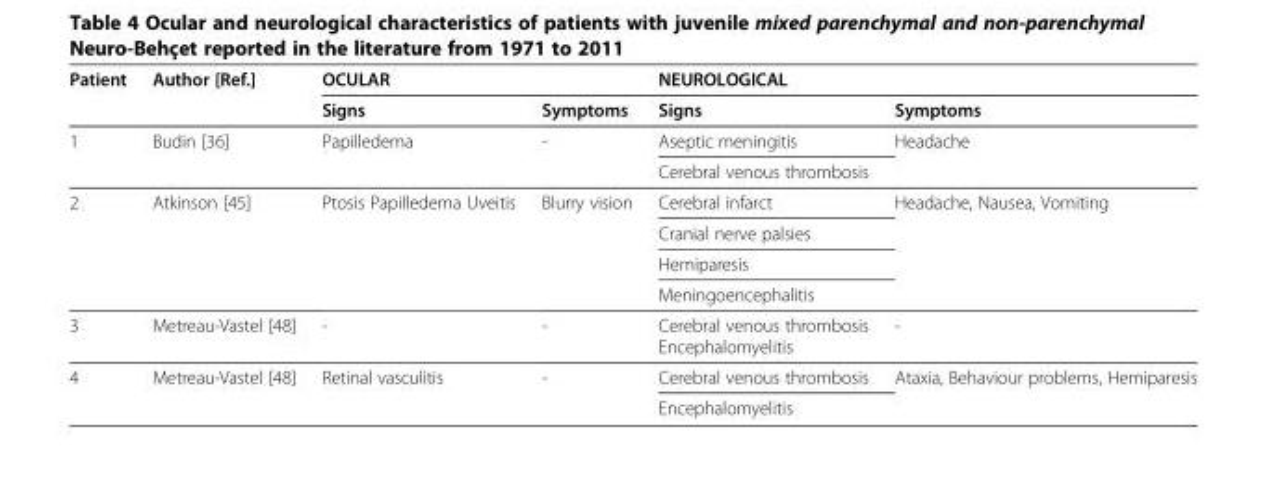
<table><thead><tr><td rowspan="2">Patient</td><td rowspan="2">Author [Ref.]</td><td colspan="2">OCULAR</td><td colspan="2">NEUROLOGICAL</td></tr><tr><td>Signs</td><td>Symptoms</td><td>Signs</td><td>Symptoms</td></tr></thead><tbody><tr><td rowspan="2">1</td><td rowspan="2">Budin [36]</td><td rowspan="2">Papilledema</td><td rowspan="2">-</td><td>Aseptic meningitis</td><td rowspan="2">Headache</td></tr><tr><td>Cerebral venous thrombosis</td></tr><tr><td rowspan="4">2</td><td rowspan="4">Atkinson [45]</td><td rowspan="4">Ptosis Papilledema Uveitis</td><td rowspan="4">Blurry vision</td><td>Cerebral infarct</td><td rowspan="4">Headache, Nausea, Vomiting</td></tr><tr><td>Cranial nerve palsies</td></tr><tr><td>Hemiparesis</td></tr><tr><td>Meningoencephalitis</td></tr><tr><td>3</td><td>Metreau-Vastel [48]</td><td>-</td><td>-</td><td>Cerebral venous thrombosis Encephalomyelitis</td><td>-</td></tr><tr><td rowspan="2">4</td><td rowspan="2">Metreau-Vastel [48]</td><td rowspan="2">Retinal vasculitis</td><td rowspan="2">-</td><td>Cerebral venous thrombosis</td><td rowspan="2">Ataxia, Behaviour problems, Hemiparesis</td></tr><tr><td>Encephalomyelitis</td></tr></tbody></table>